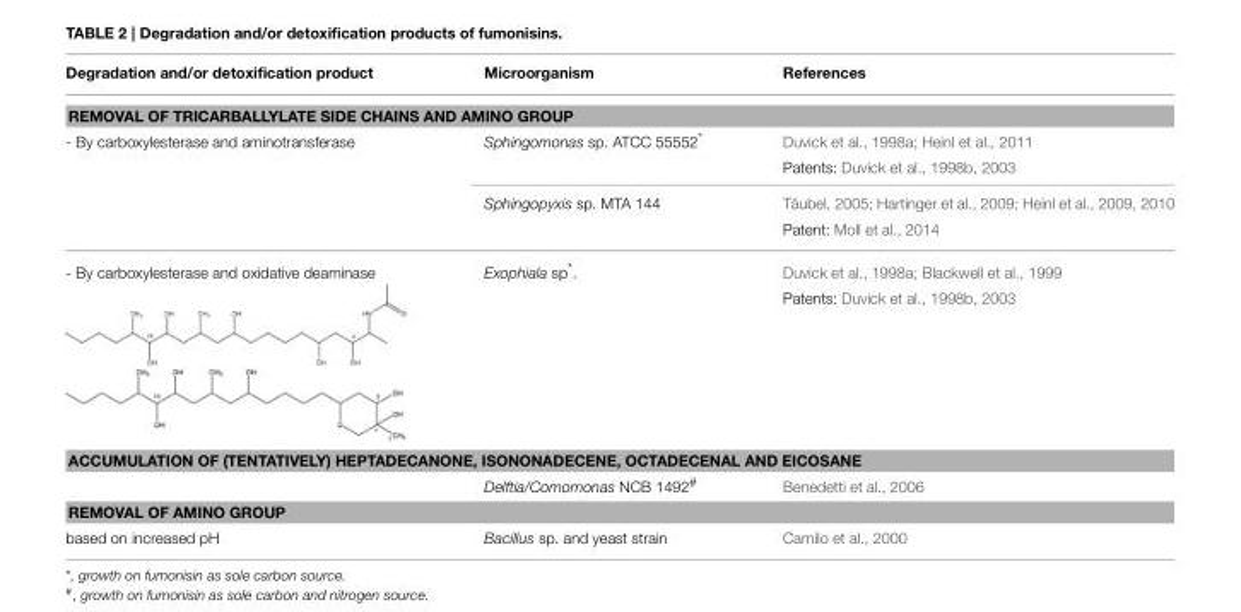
<table><thead><tr><td>Degradation and/or detoxification product</td><td>Microorganism</td><td>References</td></tr></thead><tbody><tr><td colspan="3">REMOVAL OF TRICARBALLYLATE SIDE CHAINS AND AMINO GROUP</td></tr><tr><td rowspan="4">- By carboxylesterase and aminotransferase</td><td>Sphingomonas sp. ATCC 55552*</td><td>Duvick et al., 1998a; Heinl et al., 2011</td></tr><tr><td></td><td>Patents: Duvick et al., 1998b, 2003</td></tr><tr><td>Sphingopyxis sp. MTA 144</td><td>Täubel, 2005; Hartinger et al., 2009; Heinl et al., 2009, 2010</td></tr><tr><td></td><td>Patent: Moll et al., 2014</td></tr><tr><td rowspan="2">- By carboxylesterase and oxidative deaminase</td><td>Exophiala sp*.</td><td>Duvick et al., 1998a; Blackwell et al., 1999</td></tr><tr><td></td><td>Patents: Duvick et al., 1998b, 2003</td></tr><tr><td colspan="3">ACCUMULATION OF (TENTATIVELY) HEPTADECANONE, ISONONADECENE, OCTADECENAL AND EICOSANE</td></tr><tr><td></td><td>Delftia/Comomonas NCB 1492<sup>#</sup></td><td>Benedetti et al., 2006</td></tr><tr><td colspan="3">REMOVAL OF AMINO GROUP</td></tr><tr><td>based on increased pH</td><td>Bacillus sp. and yeast strain</td><td>Camilo et al., 2000</td></tr></tbody></table>